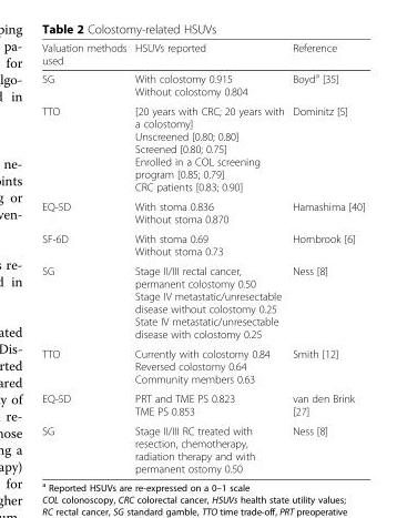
<table><thead><tr><td>Valuation methods used</td><td>HSUVs reported</td><td>Reference</td></tr></thead><tbody><tr><td>SG</td><td>With colostomy 0.915 Without colostomy 0.804</td><td>Boyd<sup>a</sup> [35]</td></tr><tr><td>TTO</td><td>[20 years with CRC; 20 years with a colostomy] Unscreened [0.80; 0.80] Screened [0.80; 0.75] Enrolled in a COL screening program [0.85; 0.79] CRC patients [0.83; 0.90]</td><td>Dominitz [5]</td></tr><tr><td>EQ-5D</td><td>With stoma 0.836 Without stoma 0.870</td><td>Hamashima [40]</td></tr><tr><td>SF-6D</td><td>With stoma 0.69 Without stoma 0.73</td><td>Hornbrook [6]</td></tr><tr><td>SG</td><td>Stage II/III rectal cancer, permanent colostomy 0.50 Stage IV metastatic/unresectable disease without colostomy 0.25 State IV metastatic/unresectable disease with colostomy 0.25</td><td>Ness [8]</td></tr><tr><td>TTO</td><td>Currently with colostomy 0.84 Reversed colostomy 0.64 Community members 0.63</td><td>Smith [12]</td></tr><tr><td>EQ-5D</td><td>PRT and TME PS 0.823 TME PS 0.853</td><td>van den Brink [27]</td></tr><tr><td>SG</td><td>Stage II/III RC treated with resection, chemotherapy, radiation therapy and with permanent ostomy 0.50</td><td>Ness [8]</td></tr></tbody></table>